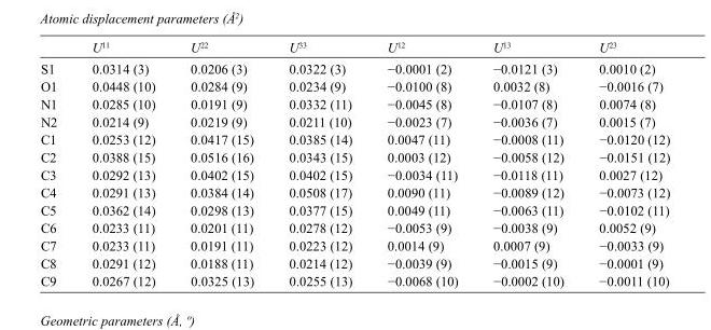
<table><thead><tr><td></td><td>U<sup>11</sup></td><td>U<sup>22</sup></td><td>U<sup>33</sup></td><td>U<sup>12</sup></td><td>U<sup>13</sup></td><td>U<sup>23</sup></td></tr></thead><tbody><tr><td>S1</td><td>0.0314 (3)</td><td>0.0206 (3)</td><td>0.0322 (3)</td><td>−0.0001 (2)</td><td>−0.0121 (3)</td><td>0.0010 (2)</td></tr><tr><td>O1</td><td>0.0448 (10)</td><td>0.0284 (9)</td><td>0.0234 (9)</td><td>−0.0100 (8)</td><td>0.0032 (8)</td><td>−0.0016 (7)</td></tr><tr><td>N1</td><td>0.0285 (10)</td><td>0.0191 (9)</td><td>0.0332 (11)</td><td>−0.0045 (8)</td><td>−0.0107 (8)</td><td>0.0074 (8)</td></tr><tr><td>N2</td><td>0.0214 (9)</td><td>0.0219 (9)</td><td>0.0211 (10)</td><td>−0.0023 (7)</td><td>−0.0036 (7)</td><td>0.0015 (7)</td></tr><tr><td>C1</td><td>0.0253 (12)</td><td>0.0417 (15)</td><td>0.0385 (14)</td><td>0.0047 (11)</td><td>−0.0008 (11)</td><td>−0.0120 (12)</td></tr><tr><td>C2</td><td>0.0388 (15)</td><td>0.0516 (16)</td><td>0.0343 (15)</td><td>0.0003 (12)</td><td>−0.0058 (12)</td><td>−0.0151 (12)</td></tr><tr><td>C3</td><td>0.0292 (13)</td><td>0.0402 (15)</td><td>0.0402 (15)</td><td>−0.0034 (11)</td><td>−0.0118 (11)</td><td>0.0027 (12)</td></tr><tr><td>C4</td><td>0.0291 (13)</td><td>0.0384 (14)</td><td>0.0508 (17)</td><td>0.0090 (11)</td><td>−0.0089 (12)</td><td>−0.0073 (12)</td></tr><tr><td>C5</td><td>0.0362 (14)</td><td>0.0298 (13)</td><td>0.0377 (15)</td><td>0.0049 (11)</td><td>−0.0063 (11)</td><td>−0.0102 (11)</td></tr><tr><td>C6</td><td>0.0233 (11)</td><td>0.0201 (11)</td><td>0.0278 (12)</td><td>−0.0053 (9)</td><td>−0.0038 (9)</td><td>0.0052 (9)</td></tr><tr><td>C7</td><td>0.0233 (11)</td><td>0.0191 (11)</td><td>0.0223 (12)</td><td>0.0014 (9)</td><td>0.0007 (9)</td><td>−0.0033 (9)</td></tr><tr><td>C8</td><td>0.0291 (12)</td><td>0.0188 (11)</td><td>0.0214 (12)</td><td>−0.0039 (9)</td><td>−0.0015 (9)</td><td>−0.0001 (9)</td></tr><tr><td>C9</td><td>0.0267 (12)</td><td>0.0325 (13)</td><td>0.0255 (13)</td><td>−0.0068 (10)</td><td>−0.0002 (10)</td><td>−0.0011 (10)</td></tr></tbody></table>